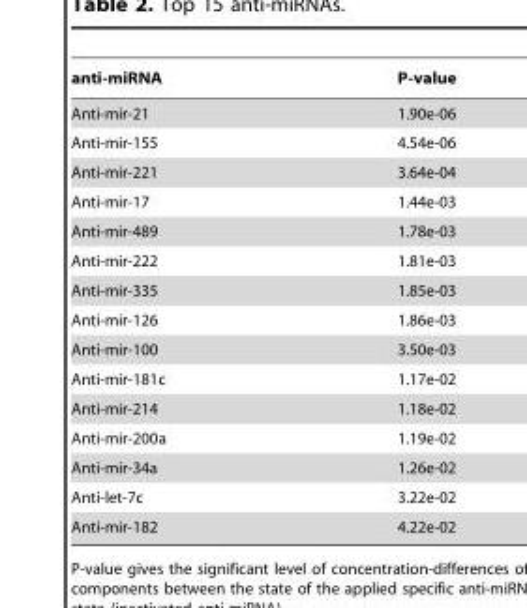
<table><thead><tr><td>anti-miRNA</td><td>P-value</td></tr></thead><tbody><tr><td>Anti-mir-21</td><td>1.90e-06</td></tr><tr><td>Anti-mir-155</td><td>4.54e-06</td></tr><tr><td>Anti-mir-221</td><td>3.64e-04</td></tr><tr><td>Anti-mir-17</td><td>1.44e-03</td></tr><tr><td>Anti-mir-489</td><td>1.78e-03</td></tr><tr><td>Anti-mir-222</td><td>1.81e-03</td></tr><tr><td>Anti-mir-335</td><td>1.85e-03</td></tr><tr><td>Anti-mir-126</td><td>1.86e-03</td></tr><tr><td>Anti-mir-100</td><td>3.50e-03</td></tr><tr><td>Anti-mir-181c</td><td>1.17e-02</td></tr><tr><td>Anti-mir-214</td><td>1.18e-02</td></tr><tr><td>Anti-mir-200a</td><td>1.19e-02</td></tr><tr><td>Anti-mir-34a</td><td>1.26e-02</td></tr><tr><td>Anti-let-7c</td><td>3.22e-02</td></tr><tr><td>Anti-mir-182</td><td>4.22e-02</td></tr></tbody></table>